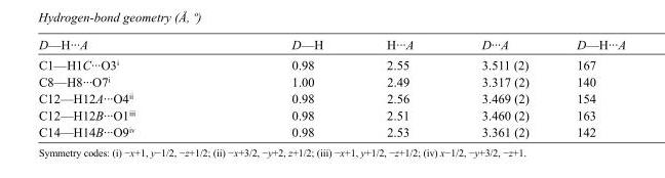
<table><tbody><tr><td>D—H···A</td><td>D—H</td><td>H···A</td><td>D···A</td><td>D—H···A</td></tr><tr><td>C1—H1C···O3<sup>i</sup></td><td>0.98</td><td>2.55</td><td>3.511 (2)</td><td>167</td></tr><tr><td>C8—H8···O7<sup>i</sup></td><td>1.00</td><td>2.49</td><td>3.317 (2)</td><td>140</td></tr><tr><td>C12—H12A···O4<sup>ii</sup></td><td>0.98</td><td>2.56</td><td>3.469 (2)</td><td>154</td></tr><tr><td>C12—H12B···O1<sup>iii</sup></td><td>0.98</td><td>2.51</td><td>3.460 (2)</td><td>163</td></tr><tr><td>C14—H14B···O9<sup>iv</sup></td><td>0.98</td><td>2.53</td><td>3.361 (2)</td><td>142</td></tr></tbody></table>